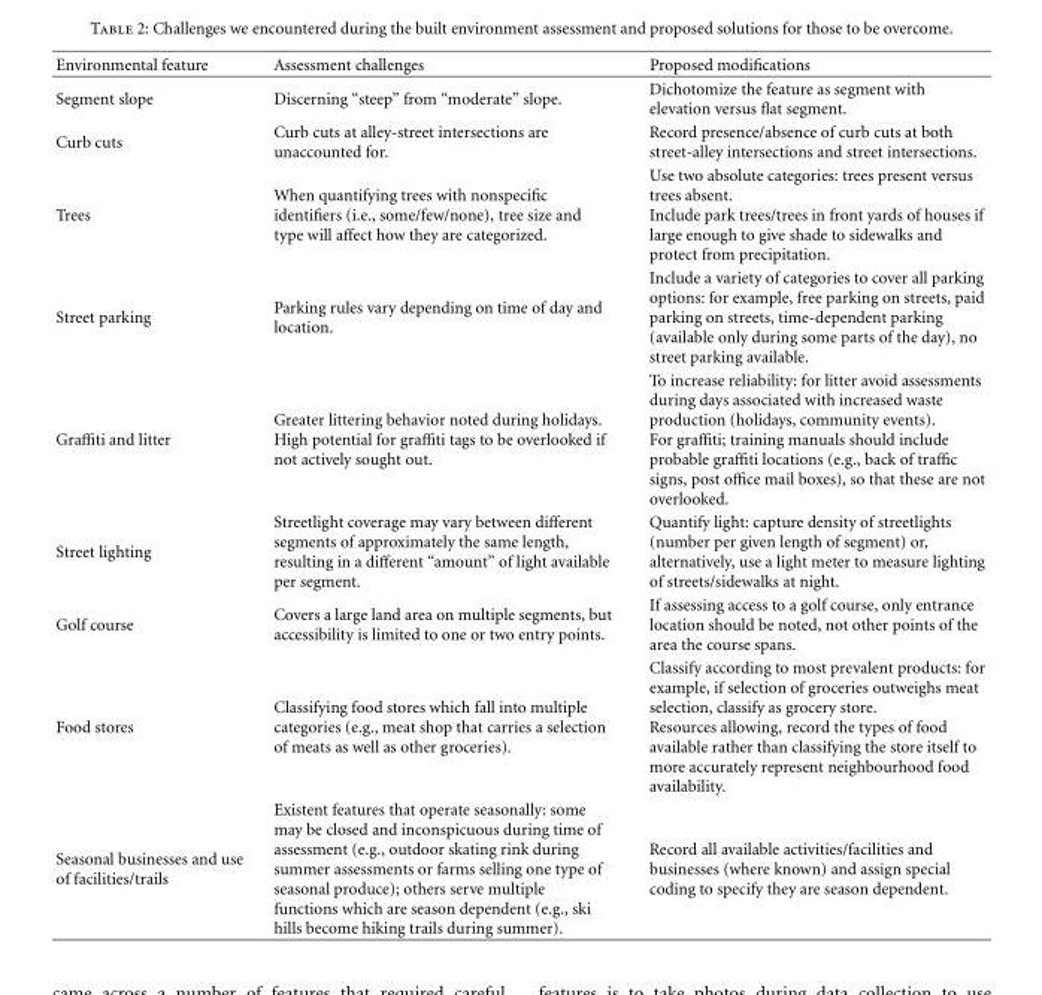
<table><thead><tr><td>Environmental feature</td><td>Assessment challenges</td><td>Proposed modifications</td></tr></thead><tbody><tr><td>Segment slope</td><td>Discerning “steep” from “moderate” slope.</td><td>Dichotomize the feature as segment with elevation versus flat segment.</td></tr><tr><td>Curb cuts</td><td>Curb cuts at alley-street intersections are unaccounted for.</td><td>Record presence/absence of curb cuts at both street-alley intersections and street intersections.</td></tr><tr><td>Trees</td><td>When quantifying trees with nonspecific identifiers (i.e., some/few/none), tree size and type will affect how they are categorized.</td><td>Use two absolute categories: trees present versus trees absent. Include park trees/trees in front yards of houses if large enough to give shade to sidewalks and protect from precipitation.</td></tr><tr><td>Street parking</td><td>Parking rules vary depending on time of day and location.</td><td>Include a variety of categories to cover all parking options: for example, free parking on streets, paid parking on streets, time-dependent parking (available only during some parts of the day), no street parking available.</td></tr><tr><td>Graffiti and litter</td><td>Greater littering behavior noted during holidays. High potential for graffiti tags to be overlooked if not actively sought out.</td><td>To increase reliability: for litter avoid assessments during days associated with increased waste production (holidays, community events). For graffiti; training manuals should include probable graffiti locations (e.g., back of traffic signs, post office mail boxes), so that these are not overlooked.</td></tr><tr><td>Street lighting</td><td>Streetlight coverage may vary between different segments of approximately the same length, resulting in a different “amount” of light available per segment.</td><td>Quantify light: capture density of streetlights (number per given length of segment) or, alternatively, use a light meter to measure lighting of streets/sidewalks at night.</td></tr><tr><td>Golf course</td><td>Covers a large land area on multiple segments, but accessibility is limited to one or two entry points.</td><td>If assessing access to a golf course, only entrance location should be noted, not other points of the area the course spans.</td></tr><tr><td>Food stores</td><td>Classifying food stores which fall into multiple categories (e.g., meat shop that carries a selection of meats as well as other groceries).</td><td>Classify according to most prevalent products: for example, if selection of groceries outweighs meat selection, classify as grocery store. Resources allowing, record the types of food available rather than classifying the store itself to more accurately represent neighbourhood food availability.</td></tr><tr><td>Seasonal businesses and use of facilities/trails</td><td>Existent features that operate seasonally: some may be closed and inconspicuous during time of assessment (e.g., outdoor skating rink during summer assessments or farms selling one type of seasonal produce); others serve multiple functions which are season dependent (e.g., ski hills become hiking trails during summer).</td><td>Record all available activities/facilities and businesses (where known) and assign special coding to specify they are season dependent.</td></tr></tbody></table>